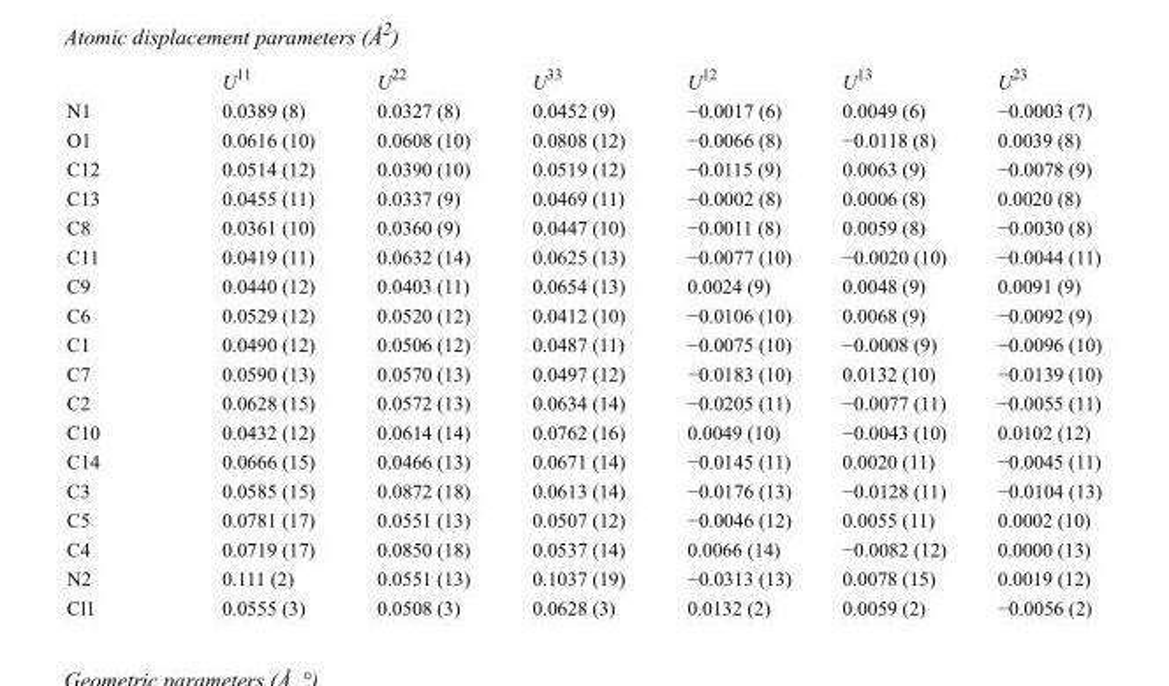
<table><thead><tr><td></td><td>U<sup>11</sup></td><td>U<sup>22</sup></td><td>U<sup>33</sup></td><td>U<sup>12</sup></td><td>U<sup>13</sup></td><td>U<sup>23</sup></td></tr></thead><tbody><tr><td>N1</td><td>0.0389 (8)</td><td>0.0327 (8)</td><td>0.0452 (9)</td><td>−0.0017 (6)</td><td>0.0049 (6)</td><td>−0.0003 (7)</td></tr><tr><td>O1</td><td>0.0616 (10)</td><td>0.0608 (10)</td><td>0.0808 (12)</td><td>−0.0066 (8)</td><td>−0.0118 (8)</td><td>0.0039 (8)</td></tr><tr><td>C12</td><td>0.0514 (12)</td><td>0.0390 (10)</td><td>0.0519 (12)</td><td>−0.0115 (9)</td><td>0.0063 (9)</td><td>−0.0078 (9)</td></tr><tr><td>C13</td><td>0.0455 (11)</td><td>0.0337 (9)</td><td>0.0469 (11)</td><td>−0.0002 (8)</td><td>0.0006 (8)</td><td>0.0020 (8)</td></tr><tr><td>C8</td><td>0.0361 (10)</td><td>0.0360 (9)</td><td>0.0447 (10)</td><td>−0.0011 (8)</td><td>0.0059 (8)</td><td>−0.0030 (8)</td></tr><tr><td>C11</td><td>0.0419 (11)</td><td>0.0632 (14)</td><td>0.0625 (13)</td><td>−0.0077 (10)</td><td>−0.0020 (10)</td><td>−0.0044 (11)</td></tr><tr><td>C9</td><td>0.0440 (12)</td><td>0.0403 (11)</td><td>0.0654 (13)</td><td>0.0024 (9)</td><td>0.0048 (9)</td><td>0.0091 (9)</td></tr><tr><td>C6</td><td>0.0529 (12)</td><td>0.0520 (12)</td><td>0.0412 (10)</td><td>−0.0106 (10)</td><td>0.0068 (9)</td><td>−0.0092 (9)</td></tr><tr><td>C1</td><td>0.0490 (12)</td><td>0.0506 (12)</td><td>0.0487 (11)</td><td>−0.0075 (10)</td><td>−0.0008 (9)</td><td>−0.0096 (10)</td></tr><tr><td>C7</td><td>0.0590 (13)</td><td>0.0570 (13)</td><td>0.0497 (12)</td><td>−0.0183 (10)</td><td>0.0132 (10)</td><td>−0.0139 (10)</td></tr><tr><td>C2</td><td>0.0628 (15)</td><td>0.0572 (13)</td><td>0.0634 (14)</td><td>−0.0205 (11)</td><td>−0.0077 (11)</td><td>−0.0055 (11)</td></tr><tr><td>C10</td><td>0.0432 (12)</td><td>0.0614 (14)</td><td>0.0762 (16)</td><td>0.0049 (10)</td><td>−0.0043 (10)</td><td>0.0102 (12)</td></tr><tr><td>C14</td><td>0.0666 (15)</td><td>0.0466 (13)</td><td>0.0671 (14)</td><td>−0.0145 (11)</td><td>0.0020 (11)</td><td>−0.0045 (11)</td></tr><tr><td>C3</td><td>0.0585 (15)</td><td>0.0872 (18)</td><td>0.0613 (14)</td><td>−0.0176 (13)</td><td>−0.0128 (11)</td><td>−0.0104 (13)</td></tr><tr><td>C5</td><td>0.0781 (17)</td><td>0.0551 (13)</td><td>0.0507 (12)</td><td>−0.0046 (12)</td><td>0.0055 (11)</td><td>0.0002 (10)</td></tr><tr><td>C4</td><td>0.0719 (17)</td><td>0.0850 (18)</td><td>0.0537 (14)</td><td>0.0066 (14)</td><td>−0.0082 (12)</td><td>0.0000 (13)</td></tr><tr><td>N2</td><td>0.111 (2)</td><td>0.0551 (13)</td><td>0.1037 (19)</td><td>−0.0313 (13)</td><td>0.0078 (15)</td><td>0.0019 (12)</td></tr><tr><td>Cl1</td><td>0.0555 (3)</td><td>0.0508 (3)</td><td>0.0628 (3)</td><td>0.0132 (2)</td><td>0.0059 (2)</td><td>−0.0056 (2)</td></tr></tbody></table>